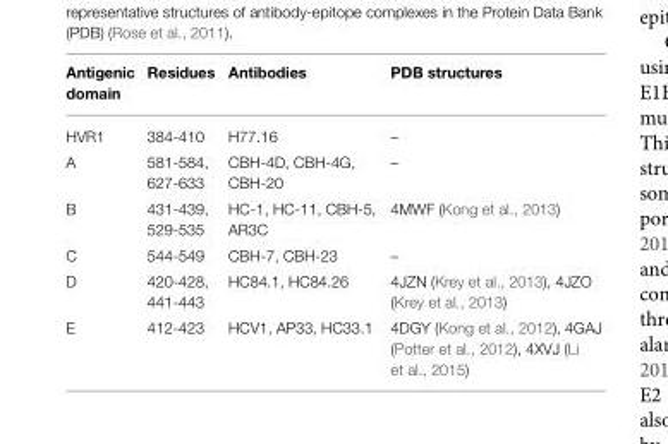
<table><thead><tr><td>Antigenic domain</td><td>Residues</td><td>Antibodies</td><td>PDB structures</td></tr></thead><tbody><tr><td>HVR1</td><td>384-410</td><td>H77.16</td><td>–</td></tr><tr><td>A</td><td>581-584, 627-633</td><td>CBH-4D, CBH-4G, CBH-20</td><td>–</td></tr><tr><td>B</td><td>431-439, 529-535</td><td>HC-1, HC-11, CBH-5, AR3C</td><td>4MWF (Kong et al., 2013)</td></tr><tr><td>C</td><td>544-549</td><td>CBH-7, CBH-23</td><td>–</td></tr><tr><td>D</td><td>420-428, 441-443</td><td>HC84.1, HC84.26</td><td>4JZN (Krey et al., 2013), 4JZO (Krey et al., 2013)</td></tr><tr><td>E</td><td>412-423</td><td>HCV1, AP33, HC33.1</td><td>4DGY (Kong et al., 2012), 4GAJ (Potter et al., 2012), 4XVJ (Li et al., 2015)</td></tr></tbody></table>